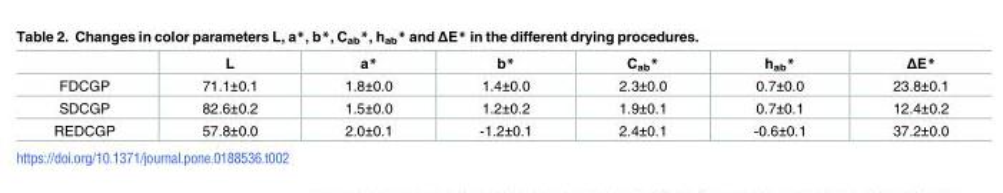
<table><thead><tr><td></td><td>L</td><td>a*</td><td>b*</td><td>C<sub>ab</sub>*</td><td>h<sub>ab</sub>*</td><td>ΔE*</td></tr></thead><tbody><tr><td>FDCGP</td><td>71.1±0.1</td><td>1.8±0.0</td><td>1.4±0.0</td><td>2.3±0.0</td><td>0.7±0.0</td><td>23.8±0.1</td></tr><tr><td>SDCGP</td><td>82.6±0.2</td><td>1.5±0.0</td><td>1.2±0.2</td><td>1.9±0.1</td><td>0.7±0.1</td><td>12.4±0.2</td></tr><tr><td>REDCGP</td><td>57.8±0.0</td><td>2.0±0.1</td><td>-1.2±0.1</td><td>2.4±0.1</td><td>-0.6±0.1</td><td>37.2±0.0</td></tr></tbody></table>